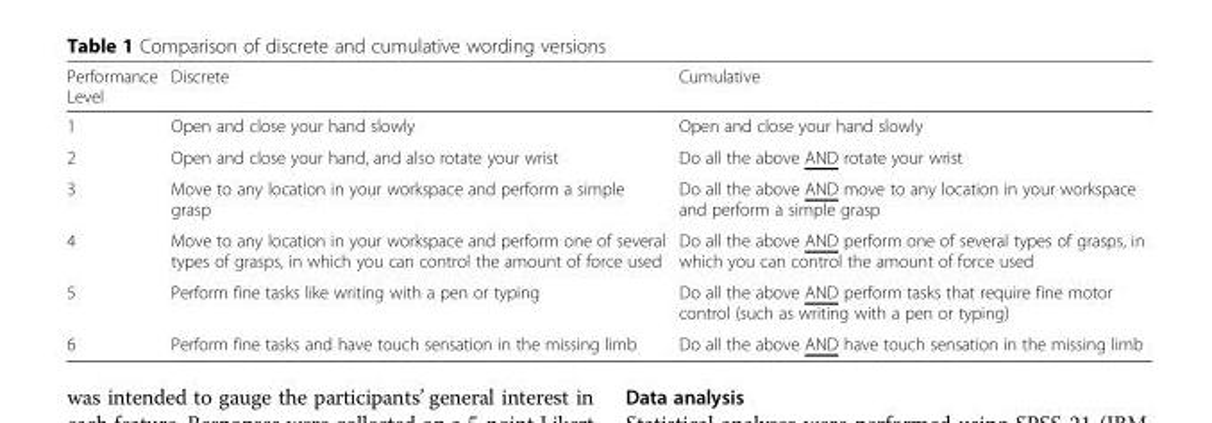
<table><thead><tr><td>Performance Level</td><td>Discrete</td><td>Cumulative</td></tr></thead><tbody><tr><td>1</td><td>Open and close your hand slowly</td><td>Open and close your hand slowly</td></tr><tr><td>2</td><td>Open and close your hand, and also rotate your wrist</td><td>Do all the above AND rotate your wrist</td></tr><tr><td>3</td><td>Move to any location in your workspace and perform a simple grasp</td><td>Do all the above AND move to any location in your workspace and perform a simple grasp</td></tr><tr><td>4</td><td>Move to any location in your workspace and perform one of several types of grasps, in which you can control the amount of force used</td><td>Do all the above AND perform one of several types of grasps, in which you can control the amount of force used</td></tr><tr><td>5</td><td>Perform fine tasks like writing with a pen or typing</td><td>Do all the above AND perform tasks that require fine motor control (such as writing with a pen or typing)</td></tr><tr><td>6</td><td>Perform fine tasks and have touch sensation in the missing limb</td><td>Do all the above AND have touch sensation in the missing limb</td></tr></tbody></table>